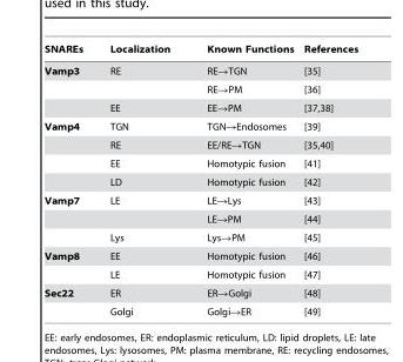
<table><thead><tr><td>SNAREs</td><td>Localization</td><td>Known Functions</td><td>References</td></tr></thead><tbody><tr><td rowspan="3">Vamp3</td><td>RE</td><td>RE→TGN</td><td>[35]</td></tr><tr><td></td><td>RE→PM</td><td>[36]</td></tr><tr><td>EE</td><td>EE→PM</td><td>[37,38]</td></tr><tr><td rowspan="4">Vamp4</td><td>TGN</td><td>TGN→Endosomes</td><td>[39]</td></tr><tr><td>RE</td><td>EE/RE→TGN</td><td>[35,40]</td></tr><tr><td>EE</td><td>Homotypic fusion</td><td>[41]</td></tr><tr><td>LD</td><td>Homotypic fusion</td><td>[42]</td></tr><tr><td rowspan="3">Vamp7</td><td>LE</td><td>LE→Lys</td><td>[43]</td></tr><tr><td></td><td>LE→PM</td><td>[44]</td></tr><tr><td>Lys</td><td>Lys→PM</td><td>[45]</td></tr><tr><td rowspan="2">Vamp8</td><td>EE</td><td>Homotypic fusion</td><td>[46]</td></tr><tr><td>LE</td><td>Homotypic fusion</td><td>[47]</td></tr><tr><td rowspan="2">Sec22</td><td>ER</td><td>ER→Golgi</td><td>[48]</td></tr><tr><td>Golgi</td><td>Golgi→ER</td><td>[49]</td></tr></tbody></table>